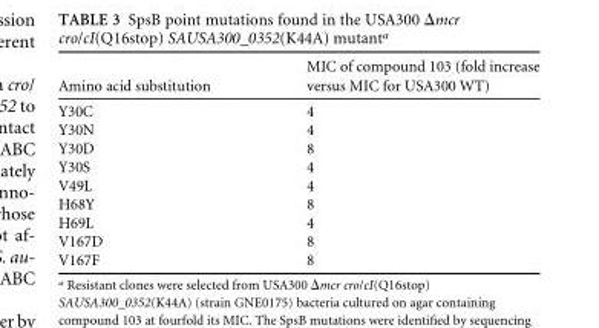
<table><thead><tr><td>Amino acid substitution</td><td>MIC of compound 103 (fold increase versus MIC for USA300 WT)</td></tr></thead><tbody><tr><td>Y30C</td><td>4</td></tr><tr><td>Y30N</td><td>4</td></tr><tr><td>Y30D</td><td>8</td></tr><tr><td>Y30S</td><td>4</td></tr><tr><td>V49L</td><td>4</td></tr><tr><td>H68Y</td><td>8</td></tr><tr><td>H69L</td><td>4</td></tr><tr><td>V167D</td><td>8</td></tr><tr><td>V167F</td><td>8</td></tr></tbody></table>